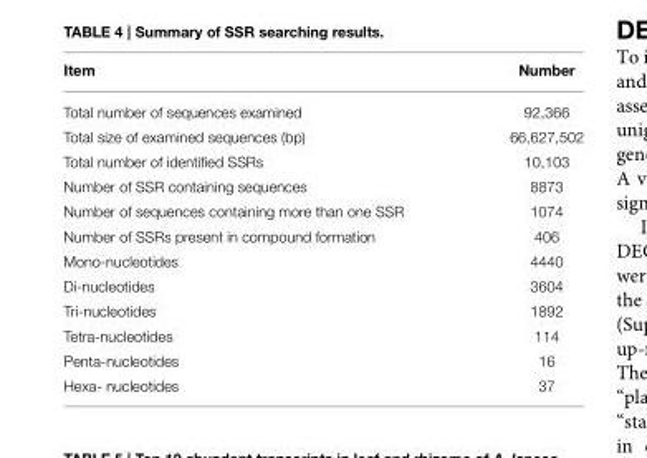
<table><thead><tr><td>Item</td><td>Number</td></tr></thead><tbody><tr><td>Total number of sequences examined</td><td>92,366</td></tr><tr><td>Total size of examined sequences (bp)</td><td>66,627,502</td></tr><tr><td>Total number of identified SSRs</td><td>10,103</td></tr><tr><td>Number of SSR containing sequences</td><td>8873</td></tr><tr><td>Number of sequences containing more than one SSR</td><td>1074</td></tr><tr><td>Number of SSRs present in compound formation</td><td>406</td></tr><tr><td>Mono-nucleotides</td><td>4440</td></tr><tr><td>Di-nucleotides</td><td>3604</td></tr><tr><td>Tri-nucleotides</td><td>1892</td></tr><tr><td>Tetra-nucleotides</td><td>114</td></tr><tr><td>Penta-nucleotides</td><td>16</td></tr><tr><td>Hexa- nucleotides</td><td>37</td></tr></tbody></table>